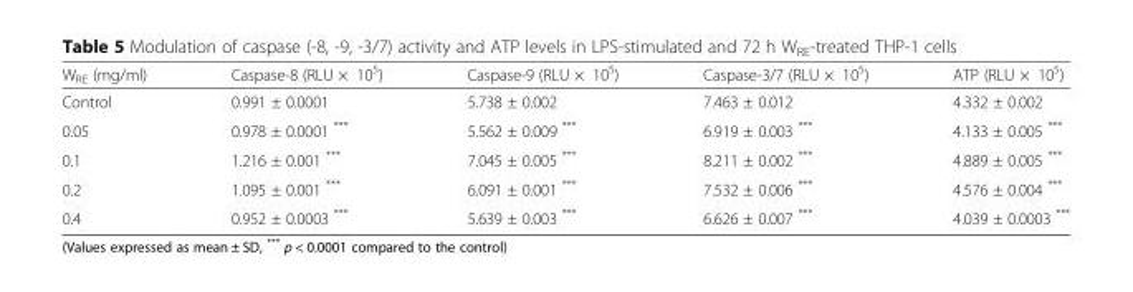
<table><thead><tr><td>W<sub>RE</sub> (mg/ml)</td><td>Caspase-8 (RLU × 10<sup>5</sup>)</td><td>Caspase-9 (RLU × 10<sup>5</sup>)</td><td>Caspase-3/7 (RLU × 10<sup>5</sup>)</td><td>ATP (RLU × 10<sup>5</sup>)</td></tr></thead><tbody><tr><td>Control</td><td>0.991 ± 0.0001</td><td>5.738 ± 0.002</td><td>7.463 ± 0.012</td><td>4.332 ± 0.002</td></tr><tr><td>0.05</td><td>0.978 ± 0.0001 ***</td><td>5.562 ± 0.009 ***</td><td>6.919 ± 0.003 ***</td><td>4.133 ± 0.005 ***</td></tr><tr><td>0.1</td><td>1.216 ± 0.001 ***</td><td>7.045 ± 0.005 ***</td><td>8.211 ± 0.002 ***</td><td>4.889 ± 0.005 ***</td></tr><tr><td>0.2</td><td>1.095 ± 0.001 ***</td><td>6.091 ± 0.001 ***</td><td>7.532 ± 0.006 ***</td><td>4.576 ± 0.004 ***</td></tr><tr><td>0.4</td><td>0.952 ± 0.0003 ***</td><td>5.639 ± 0.003 ***</td><td>6.626 ± 0.007 ***</td><td>4.039 ± 0.0003 ***</td></tr></tbody></table>